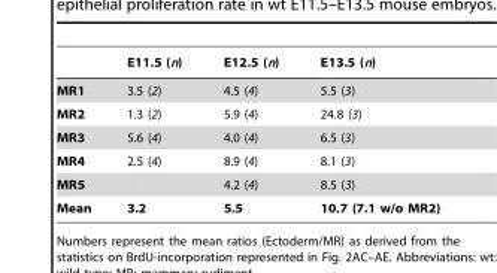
<table><thead><tr><td></td><td>E11.5 (n)</td><td>E12.5 (n)</td><td>E13.5 (n)</td></tr></thead><tbody><tr><td>MR1</td><td>3.5 (2)</td><td>4.5 (4)</td><td>5.5 (3)</td></tr><tr><td>MR2</td><td>1.3 (2)</td><td>5.9 (4)</td><td>24.8 (3)</td></tr><tr><td>MR3</td><td>5.6 (4)</td><td>4.0 (4)</td><td>6.5 (3)</td></tr><tr><td>MR4</td><td>2.5 (4)</td><td>8.9 (4)</td><td>8.1 (3)</td></tr><tr><td>MR5</td><td></td><td>4.2 (4)</td><td>8.5 (3)</td></tr><tr><td>Mean</td><td>3.2</td><td>5.5</td><td>10.7 (7.1 w/o MR2)</td></tr></tbody></table>